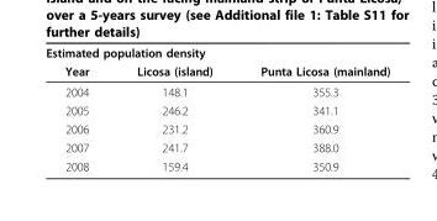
<table><thead><tr><td colspan="3">Estimated population density</td></tr><tr><td>Year</td><td>Licosa (island)</td><td>Punta Licosa (mainland)</td></tr></thead><tbody><tr><td>2004</td><td>148.1</td><td>355.3</td></tr><tr><td>2005</td><td>246.2</td><td>341.1</td></tr><tr><td>2006</td><td>231.2</td><td>360.9</td></tr><tr><td>2007</td><td>241.7</td><td>388.0</td></tr><tr><td>2008</td><td>159.4</td><td>350.9</td></tr></tbody></table>